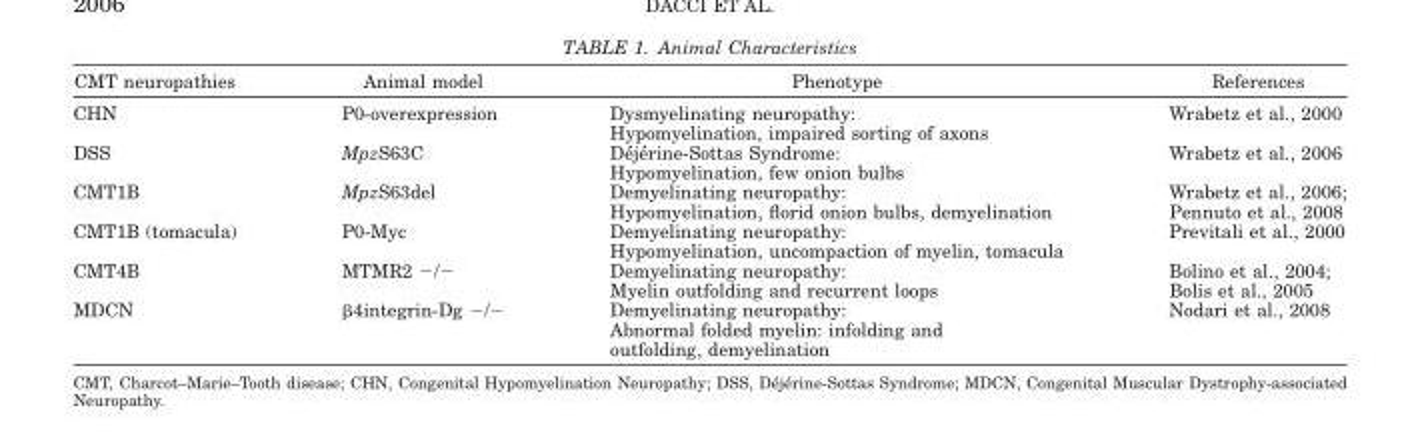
<table><thead><tr><td>CMT neuropathies</td><td>Animal model</td><td>Phenotype</td><td>References</td></tr></thead><tbody><tr><td>CHN</td><td>P0-overexpression</td><td>Dysmyelinating neuropathy: Hypomyelination, impaired sorting of axons</td><td>Wrabetz et al., 2000</td></tr><tr><td>DSS</td><td>MpzS63C</td><td>D�ej�erine-Sottas Syndrome: Hypomyelination, few onion bulbs</td><td>Wrabetz et al., 2006</td></tr><tr><td>CMT1B</td><td>MpzS63del</td><td>Demyelinating neuropathy: Hypomyelination, florid onion bulbs, demyelination</td><td>Wrabetz et al., 2006; Pennuto et al., 2008</td></tr><tr><td>CMT1B (tomacula)</td><td>P0-Myc</td><td>Demyelinating neuropathy: Hypomyelination, uncompaction of myelin, tomacula</td><td>Previtali et al., 2000</td></tr><tr><td>CMT4B</td><td>MTMR2 −/−</td><td>Demyelinating neuropathy: Myelin outfolding and recurrent loops</td><td>Bolino et al., 2004; Bolis et al., 2005</td></tr><tr><td>MDCN</td><td>β4integrin-Dg −/−</td><td>Demyelinating neuropathy: Abnormal folded myelin: infolding and outfolding, demyelination</td><td>Nodari et al., 2008</td></tr></tbody></table>